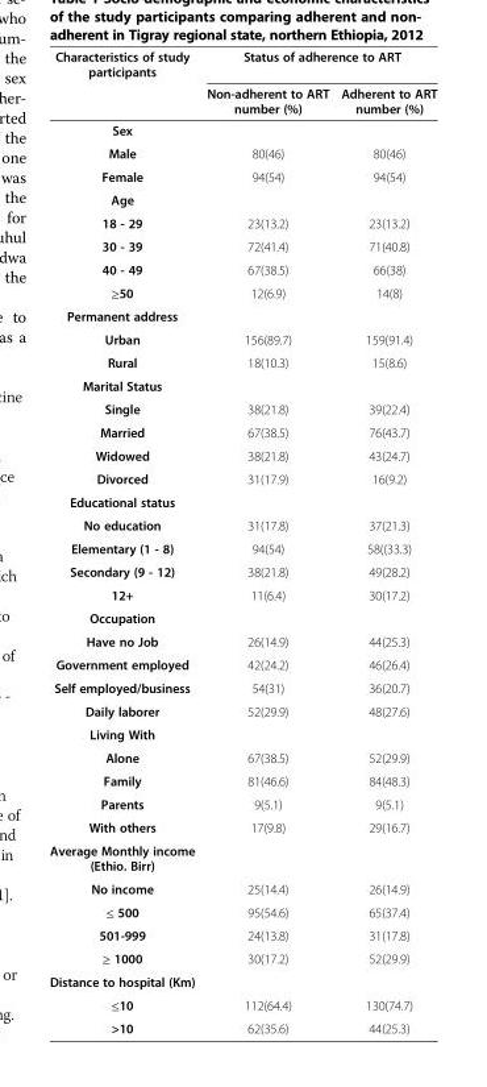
<table><thead><tr><td rowspan="2">Characteristics of study participants</td><td colspan="2">Status of adherence to ART</td></tr><tr><td>Non-adherent to ART number (%)</td><td>Adherent to ART number (%)</td></tr></thead><tbody><tr><td colspan="3">Sex</td></tr><tr><td>Male</td><td>80(46)</td><td>80(46)</td></tr><tr><td>Female</td><td>94(54)</td><td>94(54)</td></tr><tr><td colspan="3">Age</td></tr><tr><td>18 - 29</td><td>23(13.2)</td><td>23(13.2)</td></tr><tr><td>30 - 39</td><td>72(41.4)</td><td>71(40.8)</td></tr><tr><td>40 - 49</td><td>67(38.5)</td><td>66(38)</td></tr><tr><td>≥50</td><td>12(6.9)</td><td>14(8)</td></tr><tr><td colspan="3">Permanent address</td></tr><tr><td>Urban</td><td>156(89.7)</td><td>159(91.4)</td></tr><tr><td>Rural</td><td>18(10.3)</td><td>15(8.6)</td></tr><tr><td colspan="3">Marital Status</td></tr><tr><td>Single</td><td>38(21.8)</td><td>39(22.4)</td></tr><tr><td>Married</td><td>67(38.5)</td><td>76(43.7)</td></tr><tr><td>Widowed</td><td>38(21.8)</td><td>43(24.7)</td></tr><tr><td>Divorced</td><td>31(17.9)</td><td>16(9.2)</td></tr><tr><td colspan="3">Educational status</td></tr><tr><td>No education</td><td>31(17.8)</td><td>37(21.3)</td></tr><tr><td>Elementary (1 - 8)</td><td>94(54)</td><td>58((33.3)</td></tr><tr><td>Secondary (9 - 12)</td><td>38(21.8)</td><td>49(28.2)</td></tr><tr><td>12+</td><td>11(6.4)</td><td>30(17.2)</td></tr><tr><td colspan="3">Occupation</td></tr><tr><td>Have no Job</td><td>26(14.9)</td><td>44(25.3)</td></tr><tr><td>Government employed</td><td>42(24.2)</td><td>46(26.4)</td></tr><tr><td>Self employed/business</td><td>54(31)</td><td>36(20.7)</td></tr><tr><td>Daily laborer</td><td>52(29.9)</td><td>48(27.6)</td></tr><tr><td colspan="3">Living With</td></tr><tr><td>Alone</td><td>67(38.5)</td><td>52(29.9)</td></tr><tr><td>Family</td><td>81(46.6)</td><td>84(48.3)</td></tr><tr><td>Parents</td><td>9(5.1)</td><td>9(5.1)</td></tr><tr><td>With others</td><td>17(9.8)</td><td>29(16.7)</td></tr><tr><td colspan="3">Average Monthly income (Ethio. Birr)</td></tr><tr><td>No income</td><td>25(14.4)</td><td>26(14.9)</td></tr><tr><td>≤ 500</td><td>95(54.6)</td><td>65(37.4)</td></tr><tr><td>501-999</td><td>24(13.8)</td><td>31(17.8)</td></tr><tr><td>≥ 1000</td><td>30(17.2)</td><td>52(29.9)</td></tr><tr><td colspan="3">Distance to hospital (Km)</td></tr><tr><td>≤10</td><td>112(64.4)</td><td>130(74.7)</td></tr><tr><td>&gt;10</td><td>62(35.6)</td><td>44(25.3)</td></tr></tbody></table>